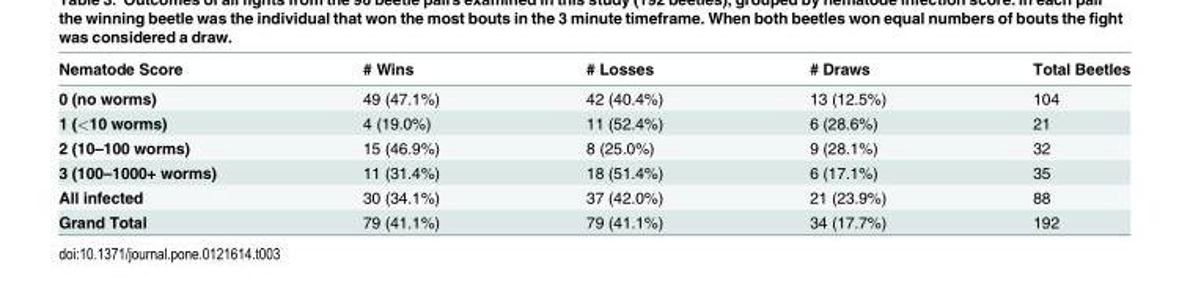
<table><thead><tr><td>Nematode Score</td><td># Wins</td><td># Losses</td><td># Draws</td><td>Total Beetles</td></tr></thead><tbody><tr><td>0 (no worms)</td><td>49 (47.1%)</td><td>42 (40.4%)</td><td>13 (12.5%)</td><td>104</td></tr><tr><td>1 (&lt;10 worms)</td><td>4 (19.0%)</td><td>11 (52.4%)</td><td>6 (28.6%)</td><td>21</td></tr><tr><td>2 (10–100 worms)</td><td>15 (46.9%)</td><td>8 (25.0%)</td><td>9 (28.1%)</td><td>32</td></tr><tr><td>3 (100–1000+ worms)</td><td>11 (31.4%)</td><td>18 (51.4%)</td><td>6 (17.1%)</td><td>35</td></tr><tr><td>All infected</td><td>30 (34.1%)</td><td>37 (42.0%)</td><td>21 (23.9%)</td><td>88</td></tr><tr><td>Grand Total</td><td>79 (41.1%)</td><td>79 (41.1%)</td><td>34 (17.7%)</td><td>192</td></tr></tbody></table>